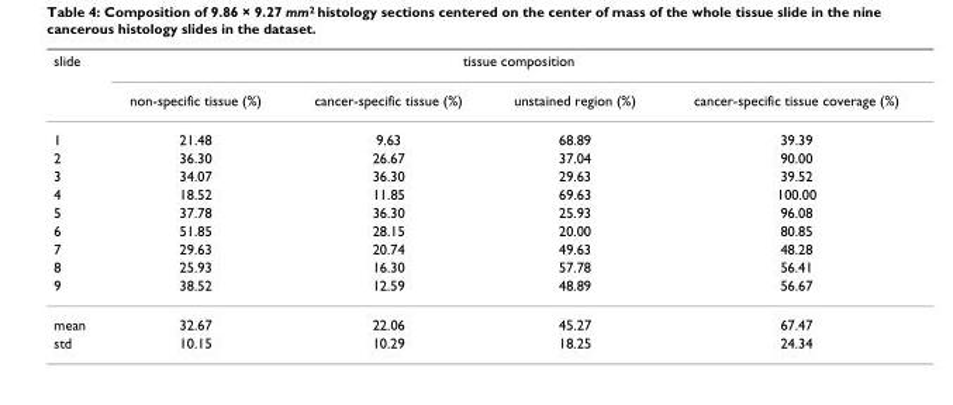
<table><thead><tr><td rowspan="2">slide</td><td colspan="4">tissue composition</td></tr><tr><td>non-specific tissue (%)</td><td>cancer-specific tissue (%)</td><td>unstained region (%)</td><td>cancer-specific tissue coverage (%)</td></tr></thead><tbody><tr><td>1</td><td>21.48</td><td>9.63</td><td>68.89</td><td>39.39</td></tr><tr><td>2</td><td>36.30</td><td>26.67</td><td>37.04</td><td>90.00</td></tr><tr><td>3</td><td>34.07</td><td>36.30</td><td>29.63</td><td>39.52</td></tr><tr><td>4</td><td>18.52</td><td>11.85</td><td>69.63</td><td>100.00</td></tr><tr><td>5</td><td>37.78</td><td>36.30</td><td>25.93</td><td>96.08</td></tr><tr><td>6</td><td>51.85</td><td>28.15</td><td>20.00</td><td>80.85</td></tr><tr><td>7</td><td>29.63</td><td>20.74</td><td>49.63</td><td>48.28</td></tr><tr><td>8</td><td>25.93</td><td>16.30</td><td>57.78</td><td>56.41</td></tr><tr><td>9</td><td>38.52</td><td>12.59</td><td>48.89</td><td>56.67</td></tr><tr><td>mean</td><td>32.67</td><td>22.06</td><td>45.27</td><td>67.47</td></tr><tr><td>std</td><td>10.15</td><td>10.29</td><td>18.25</td><td>24.34</td></tr></tbody></table>